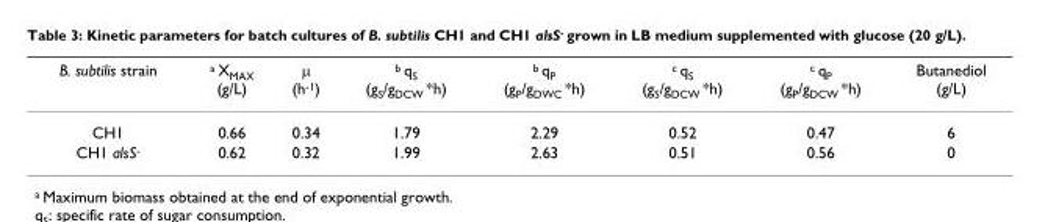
<table><thead><tr><td>B. subtilis strain</td><td><sup>a</sup> X<sub>MAX</sub> (g/L)</td><td>μ (h<sup>-1</sup>)</td><td><sup>b</sup> q<sub>S</sub> (g<sub>S</sub>/g<sub>DCW</sub> *h)</td><td><sup>b</sup> q<sub>P</sub> (g<sub>P</sub>/g<sub>DWC</sub> *h)</td><td><sup>c</sup> q<sub>S</sub> (g<sub>S</sub>/g<sub>DCW</sub> *h)</td><td><sup>c</sup> q<sub>P</sub> (g<sub>P</sub>/g<sub>DCW</sub> *h)</td><td>Butanediol (g/L)</td></tr></thead><tbody><tr><td>CH1</td><td>0.66</td><td>0.34</td><td>1.79</td><td>2.29</td><td>0.52</td><td>0.47</td><td>6</td></tr><tr><td>CH1 alsS<sup>-</sup></td><td>0.62</td><td>0.32</td><td>1.99</td><td>2.63</td><td>0.51</td><td>0.56</td><td>0</td></tr></tbody></table>